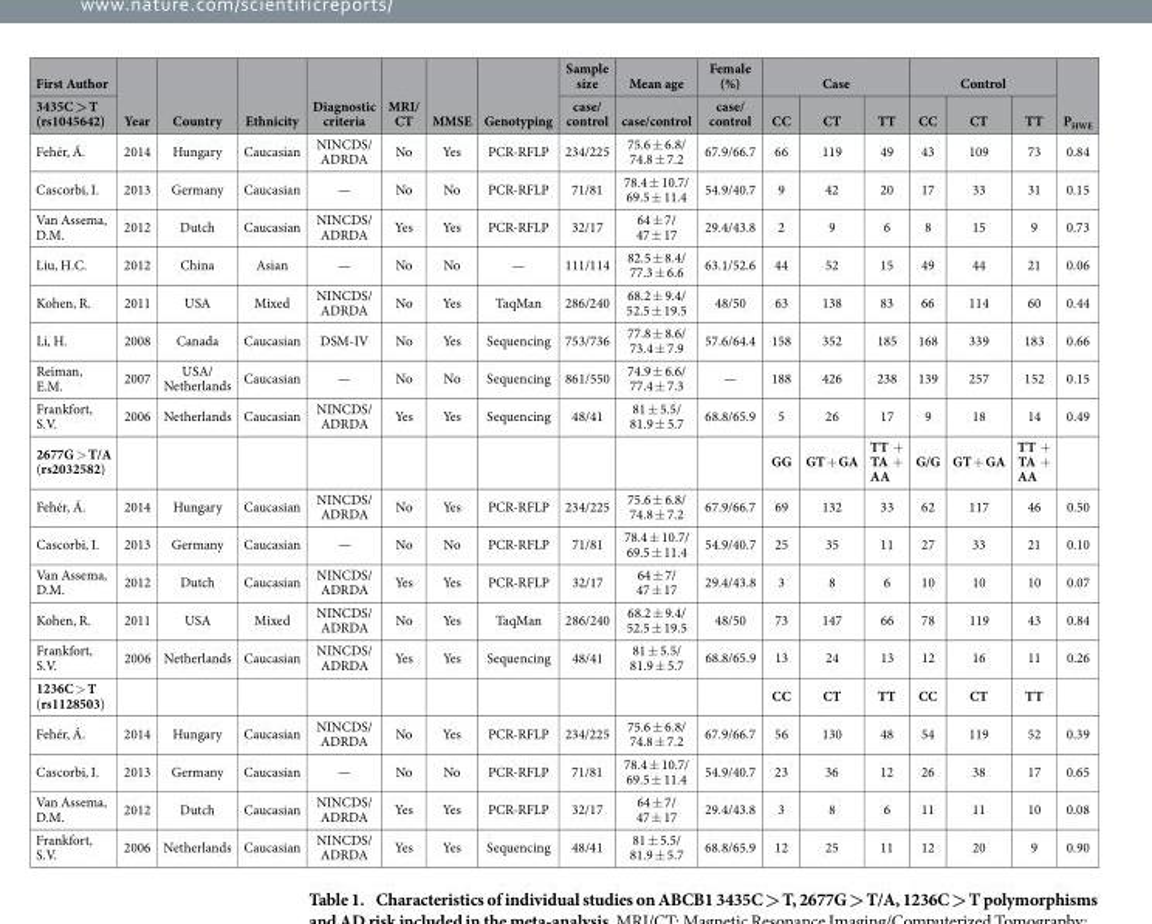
<table><thead><tr><td rowspan="2">First Author 3435C &gt; T (rs1045642)</td><td rowspan="2">Year</td><td rowspan="2">Country</td><td rowspan="2">Ethnicity</td><td rowspan="2">Diagnostic criteria</td><td rowspan="2">MRI/ CT</td><td rowspan="2">MMSE</td><td rowspan="2">Genotyping</td><td rowspan="2">Sample size case/ control</td><td rowspan="2">Mean age case/control</td><td rowspan="2">Female (%) case/ control</td><td colspan="3">Case</td><td colspan="3">Control</td><td rowspan="2">P<sub>HWE</sub></td></tr><tr><td>CC</td><td>CT</td><td>TT</td><td>CC</td><td>CT</td><td>TT</td></tr></thead><tbody><tr><td>Fehér, Á.</td><td>2014</td><td>Hungary</td><td>Caucasian</td><td>NINCDS/ ADRDA</td><td>No</td><td>Yes</td><td>PCR-RFLP</td><td>234/225</td><td>75.6 ± 6.8/ 74.8 ± 7.2</td><td>67.9/66.7</td><td>66</td><td>119</td><td>49</td><td>43</td><td>109</td><td>73</td><td>0.84</td></tr><tr><td>Cascorbi, I.</td><td>2013</td><td>Germany</td><td>Caucasian</td><td>—</td><td>No</td><td>No</td><td>PCR-RFLP</td><td>71/81</td><td>78.4 ± 10.7/ 69.5 ± 11.4</td><td>54.9/40.7</td><td>9</td><td>42</td><td>20</td><td>17</td><td>33</td><td>31</td><td>0.15</td></tr><tr><td>Van Assema, D.M.</td><td>2012</td><td>Dutch</td><td>Caucasian</td><td>NINCDS/ ADRDA</td><td>Yes</td><td>Yes</td><td>PCR-RFLP</td><td>32/17</td><td>64 ± 7/ 47 ± 17</td><td>29.4/43.8</td><td>2</td><td>9</td><td>6</td><td>8</td><td>15</td><td>9</td><td>0.73</td></tr><tr><td>Liu, H.C.</td><td>2012</td><td>China</td><td>Asian</td><td>—</td><td>No</td><td>No</td><td>—</td><td>111/114</td><td>82.5 ± 8.4/ 77.3 ± 6.6</td><td>63.1/52.6</td><td>44</td><td>52</td><td>15</td><td>49</td><td>44</td><td>21</td><td>0.06</td></tr><tr><td>Kohen, R.</td><td>2011</td><td>USA</td><td>Mixed</td><td>NINCDS/ ADRDA</td><td>No</td><td>Yes</td><td>TaqMan</td><td>286/240</td><td>68.2 ± 9.4/ 52.5 ± 19.5</td><td>48/50</td><td>63</td><td>138</td><td>83</td><td>66</td><td>114</td><td>60</td><td>0.44</td></tr><tr><td>Li, H.</td><td>2008</td><td>Canada</td><td>Caucasian</td><td>DSM-IV</td><td>No</td><td>Yes</td><td>Sequencing</td><td>753/736</td><td>77.8 ± 8.6/ 73.4 ± 7.9</td><td>57.6/64.4</td><td>158</td><td>352</td><td>185</td><td>168</td><td>339</td><td>183</td><td>0.66</td></tr><tr><td>Reiman, E.M.</td><td>2007</td><td>USA/ Netherlands</td><td>Caucasian</td><td>—</td><td>No</td><td>No</td><td>Sequencing</td><td>861/550</td><td>74.9 ± 6.6/ 77.4 ± 7.3</td><td>—</td><td>188</td><td>426</td><td>238</td><td>139</td><td>257</td><td>152</td><td>0.15</td></tr><tr><td>Frankfort, S.V.</td><td>2006</td><td>Netherlands</td><td>Caucasian</td><td>NINCDS/ ADRDA</td><td>Yes</td><td>Yes</td><td>Sequencing</td><td>48/41</td><td>81 ± 5.5/ 81.9 ± 5.7</td><td>68.8/65.9</td><td>5</td><td>26</td><td>17</td><td>9</td><td>18</td><td>14</td><td>0.49</td></tr><tr><td>2677G &gt; T/A (rs2032582)</td><td></td><td></td><td></td><td></td><td></td><td></td><td></td><td></td><td></td><td></td><td>GG</td><td>GT + GA</td><td>TT + TA + AA</td><td>G/G</td><td>GT + GA</td><td>TT + TA + AA</td><td></td></tr><tr><td>Fehér, Á.</td><td>2014</td><td>Hungary</td><td>Caucasian</td><td>NINCDS/ ADRDA</td><td>No</td><td>Yes</td><td>PCR-RFLP</td><td>234/225</td><td>75.6 ± 6.8/ 74.8 ± 7.2</td><td>67.9/66.7</td><td>69</td><td>132</td><td>33</td><td>62</td><td>117</td><td>46</td><td>0.50</td></tr><tr><td>Cascorbi, I.</td><td>2013</td><td>Germany</td><td>Caucasian</td><td>—</td><td>No</td><td>No</td><td>PCR-RFLP</td><td>71/81</td><td>78.4 ± 10.7/ 69.5 ± 11.4</td><td>54.9/40.7</td><td>25</td><td>35</td><td>11</td><td>27</td><td>33</td><td>21</td><td>0.10</td></tr><tr><td>Van Assema, D.M.</td><td>2012</td><td>Dutch</td><td>Caucasian</td><td>NINCDS/ ADRDA</td><td>Yes</td><td>Yes</td><td>PCR-RFLP</td><td>32/17</td><td>64 ± 7/ 47 ± 17</td><td>29.4/43.8</td><td>3</td><td>8</td><td>6</td><td>10</td><td>10</td><td>10</td><td>0.07</td></tr><tr><td>Kohen, R.</td><td>2011</td><td>USA</td><td>Mixed</td><td>NINCDS/ ADRDA</td><td>No</td><td>Yes</td><td>TaqMan</td><td>286/240</td><td>68.2 ± 9.4/ 52.5 ± 19.5</td><td>48/50</td><td>73</td><td>147</td><td>66</td><td>78</td><td>119</td><td>43</td><td>0.84</td></tr><tr><td>Frankfort, S.V.</td><td>2006</td><td>Netherlands</td><td>Caucasian</td><td>NINCDS/ ADRDA</td><td>Yes</td><td>Yes</td><td>Sequencing</td><td>48/41</td><td>81 ± 5.5/ 81.9 ± 5.7</td><td>68.8/65.9</td><td>13</td><td>24</td><td>13</td><td>12</td><td>16</td><td>11</td><td>0.26</td></tr><tr><td>1236C &gt; T (rs1128503)</td><td></td><td></td><td></td><td></td><td></td><td></td><td></td><td></td><td></td><td></td><td>CC</td><td>CT</td><td>TT</td><td>CC</td><td>CT</td><td>TT</td><td></td></tr><tr><td>Fehér, Á.</td><td>2014</td><td>Hungary</td><td>Caucasian</td><td>NINCDS/ ADRDA</td><td>No</td><td>Yes</td><td>PCR-RFLP</td><td>234/225</td><td>75.6 ± 6.8/ 74.8 ± 7.2</td><td>67.9/66.7</td><td>56</td><td>130</td><td>48</td><td>54</td><td>119</td><td>52</td><td>0.39</td></tr><tr><td>Cascorbi, I.</td><td>2013</td><td>Germany</td><td>Caucasian</td><td>—</td><td>No</td><td>No</td><td>PCR-RFLP</td><td>71/81</td><td>78.4 ± 10.7/ 69.5 ± 11.4</td><td>54.9/40.7</td><td>23</td><td>36</td><td>12</td><td>26</td><td>38</td><td>17</td><td>0.65</td></tr><tr><td>Van Assema, D.M.</td><td>2012</td><td>Dutch</td><td>Caucasian</td><td>NINCDS/ ADRDA</td><td>Yes</td><td>Yes</td><td>PCR-RFLP</td><td>32/17</td><td>64 ± 7/ 47 ± 17</td><td>29.4/43.8</td><td>3</td><td>8</td><td>6</td><td>11</td><td>11</td><td>10</td><td>0.08</td></tr><tr><td>Frankfort, S.V.</td><td>2006</td><td>Netherlands</td><td>Caucasian</td><td>NINCDS/ ADRDA</td><td>Yes</td><td>Yes</td><td>Sequencing</td><td>48/41</td><td>81 ± 5.5/ 81.9 ± 5.7</td><td>68.8/65.9</td><td>12</td><td>25</td><td>11</td><td>12</td><td>20</td><td>9</td><td>0.90</td></tr></tbody></table>